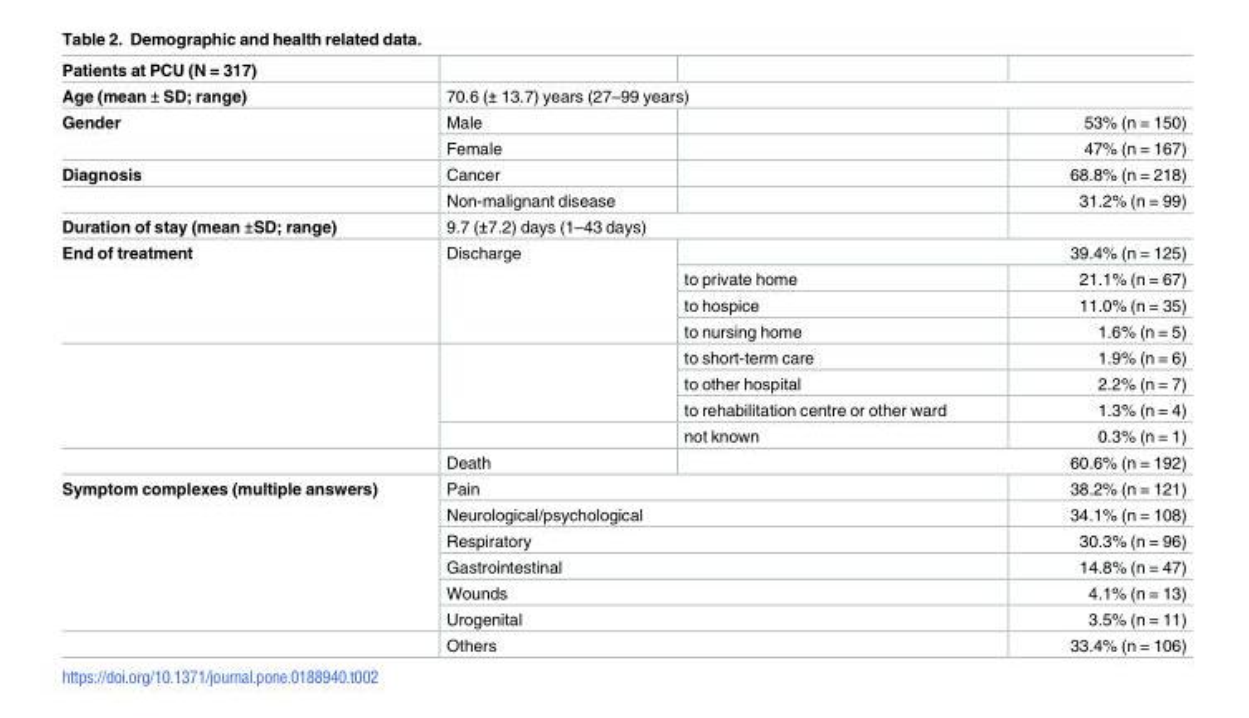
<table><tbody><tr><td colspan="4">Patients at PCU (N = 317)</td></tr><tr><td>Age (mean ± SD; range)</td><td colspan="3">70.6 (± 13.7) years (27–99 years)</td></tr><tr><td rowspan="2">Gender</td><td>Male</td><td></td><td>53% (n = 150)</td></tr><tr><td>Female</td><td></td><td>47% (n = 167)</td></tr><tr><td rowspan="2">Diagnosis</td><td>Cancer</td><td></td><td>68.8% (n = 218)</td></tr><tr><td>Non-malignant disease</td><td></td><td>31.2% (n = 99)</td></tr><tr><td>Duration of stay (mean ±SD; range)</td><td colspan="2">9.7 (±7.2) days (1–43 days)</td><td></td></tr><tr><td rowspan="9">End of treatment</td><td rowspan="4">Discharge</td><td colspan="2">39.4% (n = 125)</td></tr><tr><td>to private home</td><td>21.1% (n = 67)</td></tr><tr><td>to hospice</td><td>11.0% (n = 35)</td></tr><tr><td>to nursing home</td><td>1.6% (n = 5)</td></tr><tr><td rowspan="3"></td><td>to short-term care</td><td>1.9% (n = 6)</td></tr><tr><td>to other hospital</td><td>2.2% (n = 7)</td></tr><tr><td>to rehabilitation centre or other ward</td><td>1.3% (n = 4)</td></tr><tr><td></td><td>not known</td><td>0.3% (n = 1)</td></tr><tr><td>Death</td><td colspan="2">60.6% (n = 192)</td></tr><tr><td rowspan="7">Symptom complexes (multiple answers)</td><td colspan="2">Pain</td><td>38.2% (n = 121)</td></tr><tr><td colspan="2">Neurological/psychological</td><td>34.1% (n = 108)</td></tr><tr><td colspan="2">Respiratory</td><td>30.3% (n = 96)</td></tr><tr><td colspan="2">Gastrointestinal</td><td>14.8% (n = 47)</td></tr><tr><td colspan="2">Wounds</td><td>4.1% (n = 13)</td></tr><tr><td colspan="2">Urogenital</td><td>3.5% (n = 11)</td></tr><tr><td colspan="2">Others</td><td>33.4% (n = 106)</td></tr></tbody></table>